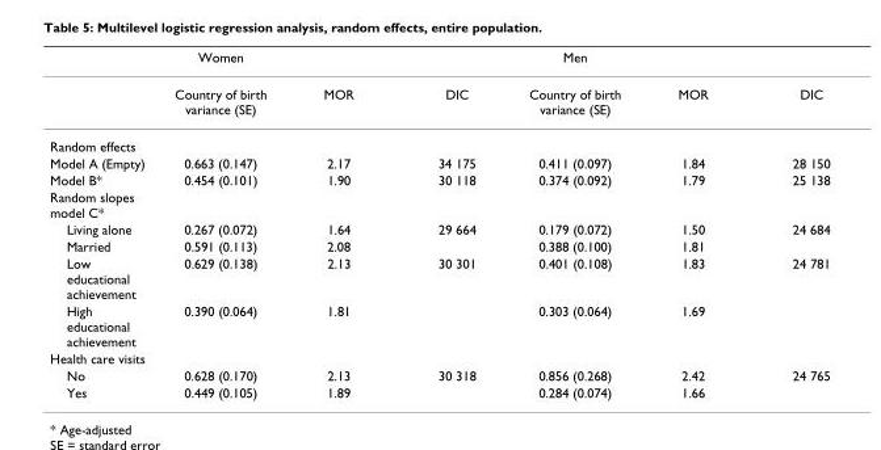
<table><thead><tr><td></td><td>Women</td><td></td><td></td><td>Men</td><td></td><td></td></tr></thead><tbody><tr><td></td><td>Country of birth variance (SE)</td><td>MOR</td><td>DIC</td><td>Country of birth variance (SE)</td><td>MOR</td><td>DIC</td></tr><tr><td colspan="7">Random effects</td></tr><tr><td>Model A (Empty)</td><td>0.663 (0.147)</td><td>2.17</td><td>34 175</td><td>0.411 (0.097)</td><td>1.84</td><td>28 150</td></tr><tr><td>Model B*</td><td>0.454 (0.101)</td><td>1.90</td><td>30 118</td><td>0.374 (0.092)</td><td>1.79</td><td>25 138</td></tr><tr><td colspan="7">Random slopes model C*</td></tr><tr><td>Living alone</td><td>0.267 (0.072)</td><td>1.64</td><td>29 664</td><td>0.179 (0.072)</td><td>1.50</td><td>24 684</td></tr><tr><td>Married</td><td>0.591 (0.113)</td><td>2.08</td><td></td><td>0.388 (0.100)</td><td>1.81</td><td></td></tr><tr><td>Low educational achievement</td><td>0.629 (0.138)</td><td>2.13</td><td>30 301</td><td>0.401 (0.108)</td><td>1.83</td><td>24 781</td></tr><tr><td>High educational achievement</td><td>0.390 (0.064)</td><td>1.81</td><td></td><td>0.303 (0.064)</td><td>1.69</td><td></td></tr><tr><td colspan="7">Health care visits</td></tr><tr><td>No</td><td>0.628 (0.170)</td><td>2.13</td><td>30 318</td><td>0.856 (0.268)</td><td>2.42</td><td>24 765</td></tr><tr><td>Yes</td><td>0.449 (0.105)</td><td>1.89</td><td></td><td>0.284 (0.074)</td><td>1.66</td><td></td></tr></tbody></table>